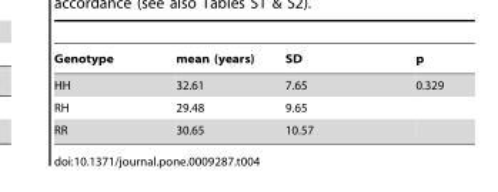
<table><thead><tr><td>Genotype</td><td>mean (years)</td><td>SD</td><td>p</td></tr></thead><tbody><tr><td>HH</td><td>32.61</td><td>7.65</td><td>0.329</td></tr><tr><td>RH</td><td>29.48</td><td>9.65</td><td></td></tr><tr><td>RR</td><td>30.65</td><td>10.57</td><td></td></tr></tbody></table>